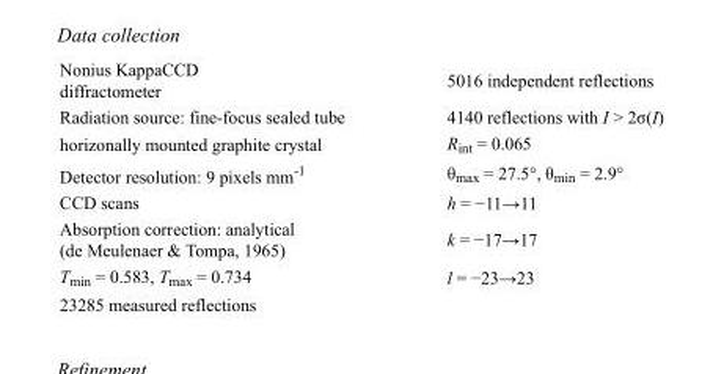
<table><tbody><tr><td>Nonius KappaCCD diffractometer</td><td>5016 independent reflections</td></tr><tr><td>Radiation source: fine-focus sealed tube</td><td>4140 reflections with I &gt; 2σ(I)</td></tr><tr><td>horizonally mounted graphite crystal</td><td>R<sub>int</sub> = 0.065</td></tr><tr><td>Detector resolution: 9 pixels mm<sup>-1</sup></td><td>θ<sub>max</sub> = 27.5°, θ<sub>min</sub> = 2.9°</td></tr><tr><td>CCD scans</td><td>h = −11→11</td></tr><tr><td>Absorption correction: analytical (de Meulenaer &amp; Tompa, 1965)</td><td>k = −17→17</td></tr><tr><td>T<sub>min</sub> = 0.583, T<sub>max</sub> = 0.734</td><td>l = −23→23</td></tr><tr><td>23285 measured reflections</td><td></td></tr></tbody></table>